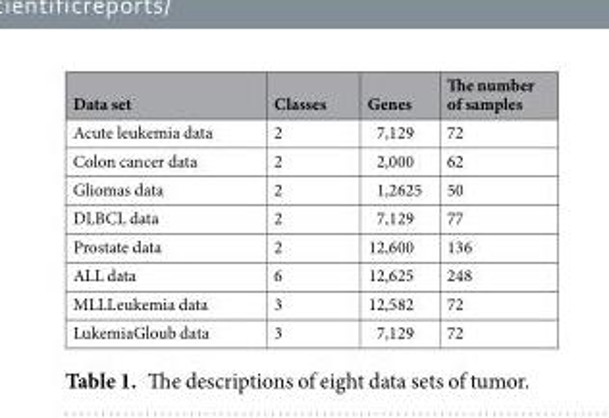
<table><thead><tr><td>Data set</td><td>Classes</td><td>Genes</td><td>The number of samples</td></tr></thead><tbody><tr><td>Acute leukemia data</td><td>2</td><td>7,129</td><td>72</td></tr><tr><td>Colon cancer data</td><td>2</td><td>2,000</td><td>62</td></tr><tr><td>Gliomas data</td><td>2</td><td>1,2625</td><td>50</td></tr><tr><td>DLBCL data</td><td>2</td><td>7,129</td><td>77</td></tr><tr><td>Prostate data</td><td>2</td><td>12,600</td><td>136</td></tr><tr><td>ALL data</td><td>6</td><td>12,625</td><td>248</td></tr><tr><td>MLLLeukemia data</td><td>3</td><td>12,582</td><td>72</td></tr><tr><td>LukemiaGloub data</td><td>3</td><td>7,129</td><td>72</td></tr></tbody></table>